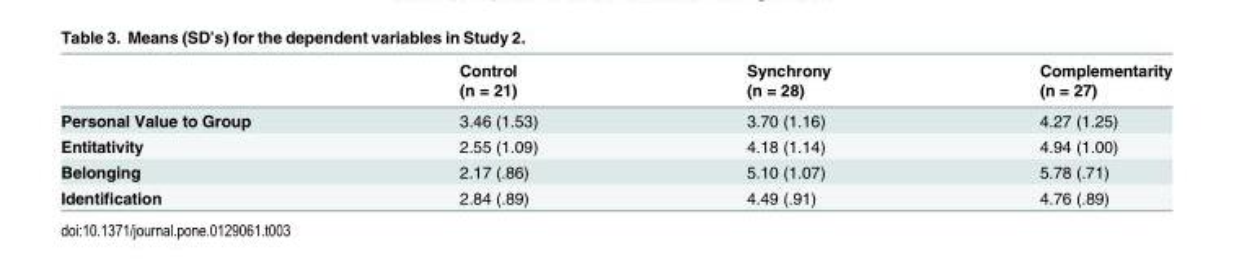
<table><thead><tr><td rowspan="2"></td><td rowspan="2">Control (n = 21)</td><td rowspan="2">Synchrony (n = 28)</td><td rowspan="2">Complementarity (n = 27)</td></tr><tr></tr></thead><tbody><tr><td>Personal Value to Group</td><td>3.46 (1.53)</td><td>3.70 (1.16)</td><td>4.27 (1.25)</td></tr><tr><td>Entitativity</td><td>2.55 (1.09)</td><td>4.18 (1.14)</td><td>4.94 (1.00)</td></tr><tr><td>Belonging</td><td>2.17 (.86)</td><td>5.10 (1.07)</td><td>5.78 (.71)</td></tr><tr><td>Identification</td><td>2.84 (.89)</td><td>4.49 (.91)</td><td>4.76 (.89)</td></tr></tbody></table>